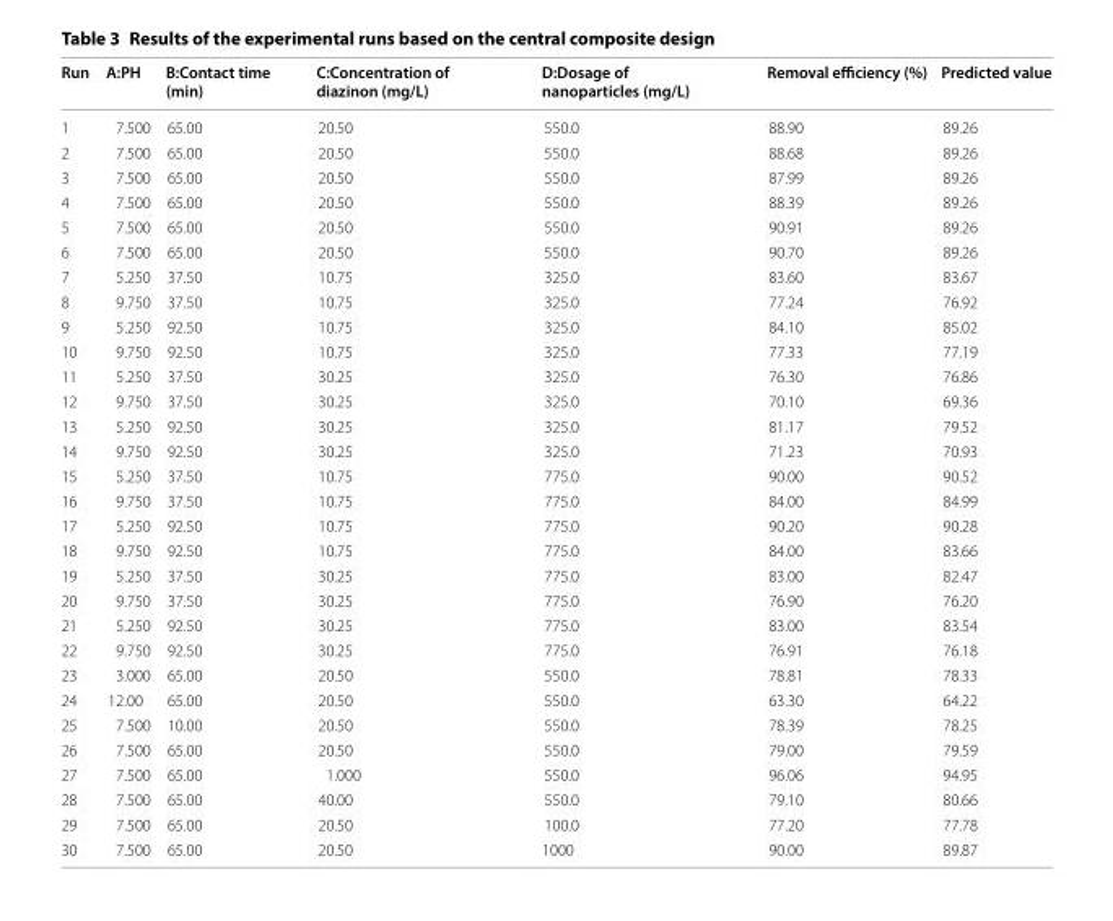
<table><thead><tr><td>Run</td><td>A:PH</td><td>B:Contact time (min)</td><td>C:Concentration of diazinon (mg/L)</td><td>D:Dosage of nanoparticles (mg/L)</td><td>Removal efficiency (%)</td><td>Predicted value</td></tr></thead><tbody><tr><td>1</td><td>7.500</td><td>65.00</td><td>20.50</td><td>550.0</td><td>88.90</td><td>89.26</td></tr><tr><td>2</td><td>7.500</td><td>65.00</td><td>20.50</td><td>550.0</td><td>88.68</td><td>89.26</td></tr><tr><td>3</td><td>7.500</td><td>65.00</td><td>20.50</td><td>550.0</td><td>87.99</td><td>89.26</td></tr><tr><td>4</td><td>7.500</td><td>65.00</td><td>20.50</td><td>550.0</td><td>88.39</td><td>89.26</td></tr><tr><td>5</td><td>7.500</td><td>65.00</td><td>20.50</td><td>550.0</td><td>90.91</td><td>89.26</td></tr><tr><td>6</td><td>7.500</td><td>65.00</td><td>20.50</td><td>550.0</td><td>90.70</td><td>89.26</td></tr><tr><td>7</td><td>5.250</td><td>37.50</td><td>10.75</td><td>325.0</td><td>83.60</td><td>83.67</td></tr><tr><td>8</td><td>9.750</td><td>37.50</td><td>10.75</td><td>325.0</td><td>77.24</td><td>76.92</td></tr><tr><td>9</td><td>5.250</td><td>92.50</td><td>10.75</td><td>325.0</td><td>84.10</td><td>85.02</td></tr><tr><td>10</td><td>9.750</td><td>92.50</td><td>10.75</td><td>325.0</td><td>77.33</td><td>77.19</td></tr><tr><td>11</td><td>5.250</td><td>37.50</td><td>30.25</td><td>325.0</td><td>76.30</td><td>76.86</td></tr><tr><td>12</td><td>9.750</td><td>37.50</td><td>30.25</td><td>325.0</td><td>70.10</td><td>69.36</td></tr><tr><td>13</td><td>5.250</td><td>92.50</td><td>30.25</td><td>325.0</td><td>81.17</td><td>79.52</td></tr><tr><td>14</td><td>9.750</td><td>92.50</td><td>30.25</td><td>325.0</td><td>71.23</td><td>70.93</td></tr><tr><td>15</td><td>5.250</td><td>37.50</td><td>10.75</td><td>775.0</td><td>90.00</td><td>90.52</td></tr><tr><td>16</td><td>9.750</td><td>37.50</td><td>10.75</td><td>775.0</td><td>84.00</td><td>84.99</td></tr><tr><td>17</td><td>5.250</td><td>92.50</td><td>10.75</td><td>775.0</td><td>90.20</td><td>90.28</td></tr><tr><td>18</td><td>9.750</td><td>92.50</td><td>10.75</td><td>775.0</td><td>84.00</td><td>83.66</td></tr><tr><td>19</td><td>5.250</td><td>37.50</td><td>30.25</td><td>775.0</td><td>83.00</td><td>82.47</td></tr><tr><td>20</td><td>9.750</td><td>37.50</td><td>30.25</td><td>775.0</td><td>76.90</td><td>76.20</td></tr><tr><td>21</td><td>5.250</td><td>92.50</td><td>30.25</td><td>775.0</td><td>83.00</td><td>83.54</td></tr><tr><td>22</td><td>9.750</td><td>92.50</td><td>30.25</td><td>775.0</td><td>76.91</td><td>76.18</td></tr><tr><td>23</td><td>3.000</td><td>65.00</td><td>20.50</td><td>550.0</td><td>78.81</td><td>78.33</td></tr><tr><td>24</td><td>12.00</td><td>65.00</td><td>20.50</td><td>550.0</td><td>63.30</td><td>64.22</td></tr><tr><td>25</td><td>7.500</td><td>10.00</td><td>20.50</td><td>550.0</td><td>78.39</td><td>78.25</td></tr><tr><td>26</td><td>7.500</td><td>65.00</td><td>20.50</td><td>550.0</td><td>79.00</td><td>79.59</td></tr><tr><td>27</td><td>7.500</td><td>65.00</td><td>1.000</td><td>550.0</td><td>96.06</td><td>94.95</td></tr><tr><td>28</td><td>7.500</td><td>65.00</td><td>40.00</td><td>550.0</td><td>79.10</td><td>80.66</td></tr><tr><td>29</td><td>7.500</td><td>65.00</td><td>20.50</td><td>100.0</td><td>77.20</td><td>77.78</td></tr><tr><td>30</td><td>7.500</td><td>65.00</td><td>20.50</td><td>1000</td><td>90.00</td><td>89.87</td></tr></tbody></table>